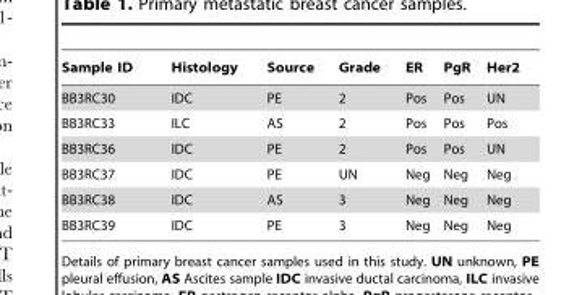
<table><thead><tr><td>Sample ID</td><td>Histology</td><td>Source</td><td>Grade</td><td>ER</td><td>PgR</td><td>Her2</td></tr></thead><tbody><tr><td>BB3RC30</td><td>IDC</td><td>PE</td><td>2</td><td>Pos</td><td>Pos</td><td>UN</td></tr><tr><td>BB3RC33</td><td>ILC</td><td>AS</td><td>2</td><td>Pos</td><td>Pos</td><td>Pos</td></tr><tr><td>BB3RC36</td><td>IDC</td><td>PE</td><td>2</td><td>Pos</td><td>Pos</td><td>UN</td></tr><tr><td>BB3RC37</td><td>IDC</td><td>PE</td><td>UN</td><td>Neg</td><td>Neg</td><td>Neg</td></tr><tr><td>BB3RC38</td><td>IDC</td><td>AS</td><td>3</td><td>Neg</td><td>Neg</td><td>Neg</td></tr><tr><td>BB3RC39</td><td>IDC</td><td>PE</td><td>3</td><td>Neg</td><td>Neg</td><td>Neg</td></tr></tbody></table>